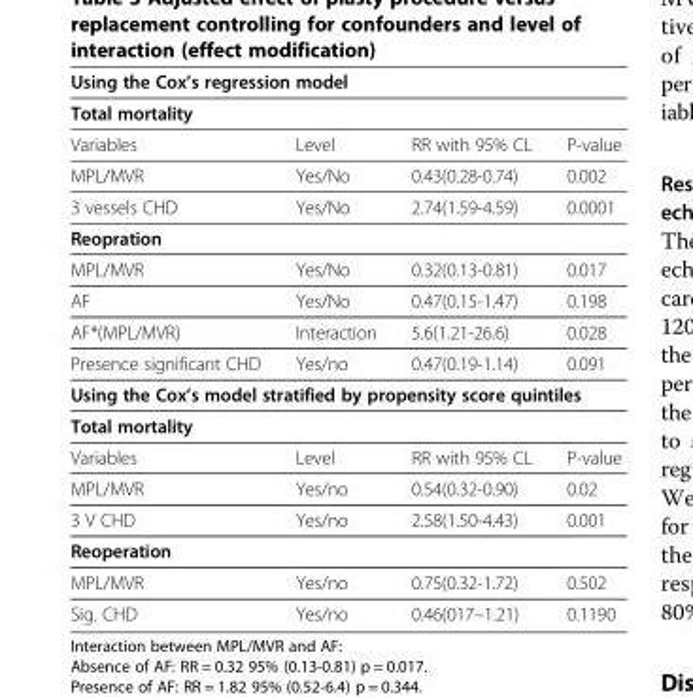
<table><thead><tr><td colspan="4">Using the Cox’s regression model</td></tr><tr><td>Total mortality</td><td></td><td></td><td></td></tr></thead><tbody><tr><td>Variables</td><td>Level</td><td>RR with 95% CL</td><td>P-value</td></tr><tr><td>MPL/MVR</td><td>Yes/No</td><td>0.43(0.28-0.74)</td><td>0.002</td></tr><tr><td>3 vessels CHD</td><td>Yes/No</td><td>2.74(1.59-4.59)</td><td>0.0001</td></tr><tr><td colspan="4">Reopration</td></tr><tr><td>MPL/MVR</td><td>Yes/No</td><td>0.32(0.13-0.81)</td><td>0.017</td></tr><tr><td>AF</td><td>Yes/No</td><td>0.47(0.15-1.47)</td><td>0.198</td></tr><tr><td>AF*(MPL/MVR)</td><td>Interaction</td><td>5.6(1.21-26.6)</td><td>0.028</td></tr><tr><td>Presence significant CHD</td><td>Yes/no</td><td>0.47(0.19-1.14)</td><td>0.091</td></tr><tr><td colspan="4">Using the Cox’s model stratified by propensity score quintiles</td></tr><tr><td colspan="4">Total mortality</td></tr><tr><td>Variables</td><td>Level</td><td>RR with 95% CL</td><td>P-value</td></tr><tr><td>MPL/MVR</td><td>Yes/no</td><td>0.54(0.32-0.90)</td><td>0.02</td></tr><tr><td>3 V CHD</td><td>Yes/no</td><td>2.58(1.50-4.43)</td><td>0.001</td></tr><tr><td colspan="4">Reoperation</td></tr><tr><td>MPL/MVR</td><td>Yes/no</td><td>0.75(0.32-1.72)</td><td>0.502</td></tr><tr><td>Sig. CHD</td><td>Yes/no</td><td>0.46(017–1.21)</td><td>0.1190</td></tr></tbody></table>